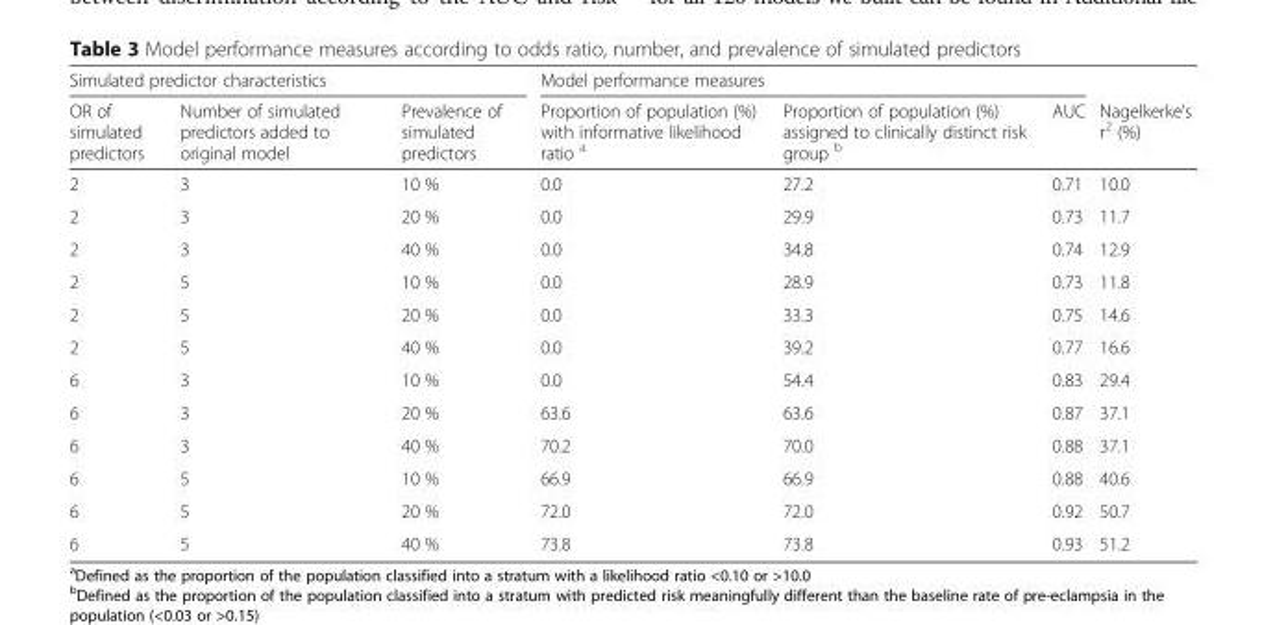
<table><thead><tr><td colspan="3">Simulated predictor characteristics</td><td colspan="3">Model performance measures</td><td rowspan="2">Nagelkerke’s r<sup>2</sup> (%)</td></tr><tr><td>OR of simulated predictors</td><td>Number of simulated predictors added to original model</td><td>Prevalence of simulated predictors</td><td>Proportion of population (%) with informative likelihood ratio <sup>a</sup></td><td>Proportion of population (%) assigned to clinically distinct risk group <sup>b</sup></td><td>AUC</td></tr></thead><tbody><tr><td>2</td><td>3</td><td>10 %</td><td>0.0</td><td>27.2</td><td>0.71</td><td>10.0</td></tr><tr><td>2</td><td>3</td><td>20 %</td><td>0.0</td><td>29.9</td><td>0.73</td><td>11.7</td></tr><tr><td>2</td><td>3</td><td>40 %</td><td>0.0</td><td>34.8</td><td>0.74</td><td>12.9</td></tr><tr><td>2</td><td>5</td><td>10 %</td><td>0.0</td><td>28.9</td><td>0.73</td><td>11.8</td></tr><tr><td>2</td><td>5</td><td>20 %</td><td>0.0</td><td>33.3</td><td>0.75</td><td>14.6</td></tr><tr><td>2</td><td>5</td><td>40 %</td><td>0.0</td><td>39.2</td><td>0.77</td><td>16.6</td></tr><tr><td>6</td><td>3</td><td>10 %</td><td>0.0</td><td>54.4</td><td>0.83</td><td>29.4</td></tr><tr><td>6</td><td>3</td><td>20 %</td><td>63.6</td><td>63.6</td><td>0.87</td><td>37.1</td></tr><tr><td>6</td><td>3</td><td>40 %</td><td>70.2</td><td>70.0</td><td>0.88</td><td>37.1</td></tr><tr><td>6</td><td>5</td><td>10 %</td><td>66.9</td><td>66.9</td><td>0.88</td><td>40.6</td></tr><tr><td>6</td><td>5</td><td>20 %</td><td>72.0</td><td>72.0</td><td>0.92</td><td>50.7</td></tr><tr><td>6</td><td>5</td><td>40 %</td><td>73.8</td><td>73.8</td><td>0.93</td><td>51.2</td></tr></tbody></table>